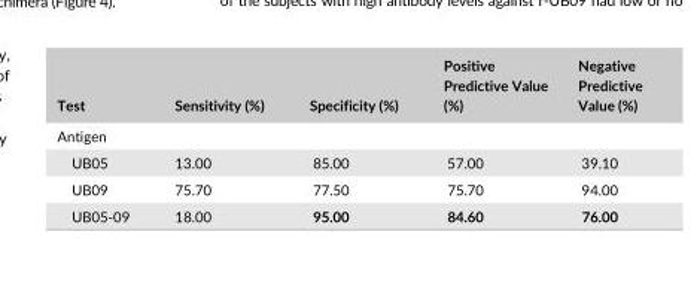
<table><thead><tr><td>Test</td><td>Sensitivity (%)</td><td>Specificity (%)</td><td>Positive Predictive Value (%)</td><td>Negative Predictive Value (%)</td></tr></thead><tbody><tr><td colspan="5">Antigen</td></tr><tr><td>UB05</td><td>13.00</td><td>85.00</td><td>57.00</td><td>39.10</td></tr><tr><td>UB09</td><td>75.70</td><td>77.50</td><td>75.70</td><td>94.00</td></tr><tr><td>UB05- 09</td><td>18.00</td><td>95.00</td><td>84.60</td><td>76.00</td></tr></tbody></table>